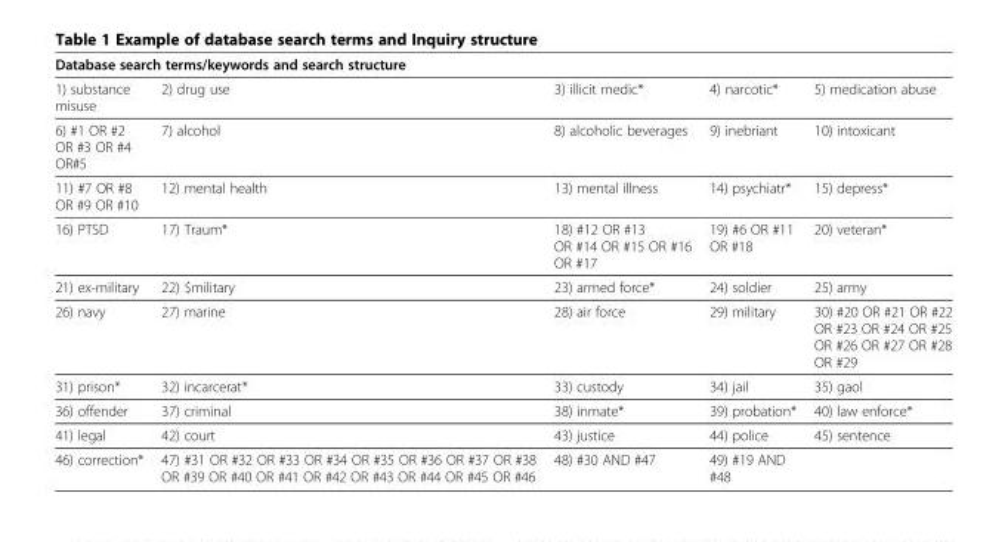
<table><thead><tr><td colspan="3">Database search terms/keywords and search structure</td><td rowspan="2">4) narcotic*</td><td rowspan="2">5) medication abuse</td></tr><tr><td>1) substance misuse</td><td>2) drug use</td><td>3) illicit medic*</td></tr></thead><tbody><tr><td>6) #1 OR #2 OR #3 OR #4 OR#5</td><td>7) alcohol</td><td>8) alcoholic beverages</td><td>9) inebriant</td><td>10) intoxicant</td></tr><tr><td>11) #7 OR #8 OR #9 OR #10</td><td>12) mental health</td><td>13) mental illness</td><td>14) psychiatr*</td><td>15) depress*</td></tr><tr><td>16) PTSD</td><td>17) Traum*</td><td>18) #12 OR #13 OR #14 OR #15 OR #16 OR #17</td><td>19) #6 OR #11 OR #18</td><td>20) veteran*</td></tr><tr><td>21) ex-military</td><td>22) $military</td><td>23) armed force*</td><td>24) soldier</td><td>25) army</td></tr><tr><td>26) navy</td><td>27) marine</td><td>28) air force</td><td>29) military</td><td>30) #20 OR #21 OR #22 OR #23 OR #24 OR #25 OR #26 OR #27 OR #28 OR #29</td></tr><tr><td>31) prison*</td><td>32) incarcerat*</td><td>33) custody</td><td>34) jail</td><td>35) gaol</td></tr><tr><td>36) offender</td><td>37) criminal</td><td>38) inmate*</td><td>39) probation*</td><td>40) law enforce*</td></tr><tr><td>41) legal</td><td>42) court</td><td>43) justice</td><td>44) police</td><td>45) sentence</td></tr><tr><td>46) correction*</td><td>47) #31 OR #32 OR #33 OR #34 OR #35 OR #36 OR #37 OR #38 OR #39 OR #40 OR #41 OR #42 OR #43 OR #44 OR #45 OR #46</td><td>48) #30 AND #47</td><td>49) #19 AND #48</td><td></td></tr></tbody></table>